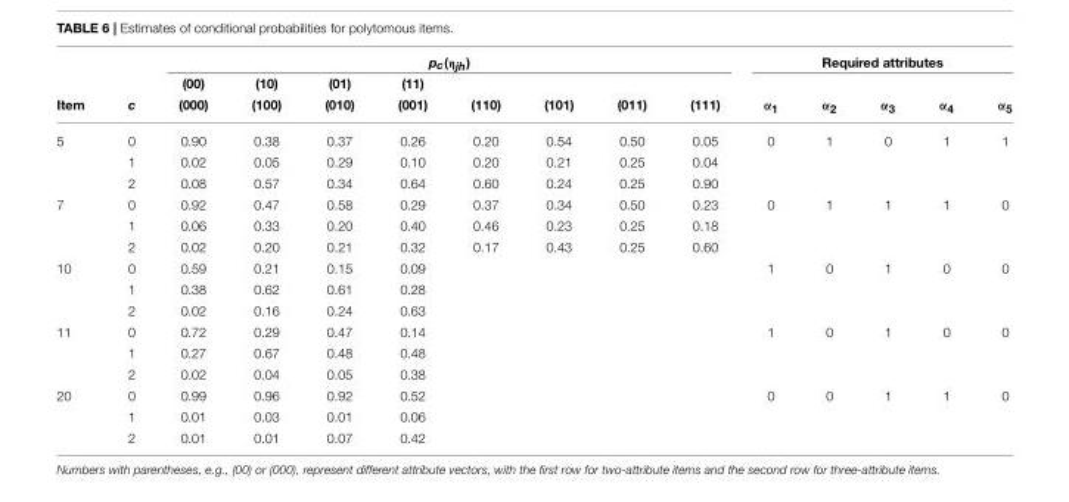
<table><thead><tr><td rowspan="2"></td><td rowspan="2"></td><td colspan="8">pc(ηjh)</td><td colspan="5">Required attributes</td></tr><tr><td>(00)</td><td>(10)</td><td>(01)</td><td>(11)</td><td></td><td></td><td></td><td></td><td></td><td></td><td></td><td></td><td></td></tr></thead><tbody><tr><td>Item</td><td>c</td><td>(000)</td><td>(100)</td><td>(010)</td><td>(001)</td><td>(110)</td><td>(101)</td><td>(011)</td><td>(111)</td><td>α<sub>1</sub></td><td>α<sub>2</sub></td><td>α<sub>3</sub></td><td>α<sub>4</sub></td><td>α<sub>5</sub></td></tr><tr><td rowspan="3">5</td><td>0</td><td>0.90</td><td>0.38</td><td>0.37</td><td>0.26</td><td>0.20</td><td>0.54</td><td>0.50</td><td>0.05</td><td>0</td><td>1</td><td>0</td><td>1</td><td>1</td></tr><tr><td>1</td><td>0.02</td><td>0.05</td><td>0.29</td><td>0.10</td><td>0.20</td><td>0.21</td><td>0.25</td><td>0.04</td><td></td><td></td><td></td><td></td><td></td></tr><tr><td>2</td><td>0.08</td><td>0.57</td><td>0.34</td><td>0.64</td><td>0.60</td><td>0.24</td><td>0.25</td><td>0.90</td><td></td><td></td><td></td><td></td><td></td></tr><tr><td rowspan="3">7</td><td>0</td><td>0.92</td><td>0.47</td><td>0.58</td><td>0.29</td><td>0.37</td><td>0.34</td><td>0.50</td><td>0.23</td><td>0</td><td>1</td><td>1</td><td>1</td><td>0</td></tr><tr><td>1</td><td>0.06</td><td>0.33</td><td>0.20</td><td>0.40</td><td>0.46</td><td>0.23</td><td>0.25</td><td>0.18</td><td></td><td></td><td></td><td></td><td></td></tr><tr><td>2</td><td>0.02</td><td>0.20</td><td>0.21</td><td>0.32</td><td>0.17</td><td>0.43</td><td>0.25</td><td>0.60</td><td></td><td></td><td></td><td></td><td></td></tr><tr><td rowspan="3">10</td><td>0</td><td>0.59</td><td>0.21</td><td>0.15</td><td>0.09</td><td></td><td></td><td></td><td></td><td>1</td><td>0</td><td>1</td><td>0</td><td>0</td></tr><tr><td>1</td><td>0.38</td><td>0.62</td><td>0.61</td><td>0.28</td><td></td><td></td><td></td><td></td><td></td><td></td><td></td><td></td><td></td></tr><tr><td>2</td><td>0.02</td><td>0.16</td><td>0.24</td><td>0.63</td><td></td><td></td><td></td><td></td><td></td><td></td><td></td><td></td><td></td></tr><tr><td rowspan="3">11</td><td>0</td><td>0.72</td><td>0.29</td><td>0.47</td><td>0.14</td><td></td><td></td><td></td><td></td><td>1</td><td>0</td><td>1</td><td>0</td><td>0</td></tr><tr><td>1</td><td>0.27</td><td>0.67</td><td>0.48</td><td>0.48</td><td></td><td></td><td></td><td></td><td></td><td></td><td></td><td></td><td></td></tr><tr><td>2</td><td>0.02</td><td>0.04</td><td>0.05</td><td>0.38</td><td></td><td></td><td></td><td></td><td></td><td></td><td></td><td></td><td></td></tr><tr><td rowspan="3">20</td><td>0</td><td>0.99</td><td>0.96</td><td>0.92</td><td>0.52</td><td></td><td></td><td></td><td></td><td>0</td><td>0</td><td>1</td><td>1</td><td>0</td></tr><tr><td>1</td><td>0.01</td><td>0.03</td><td>0.01</td><td>0.06</td><td></td><td></td><td></td><td></td><td></td><td></td><td></td><td></td><td></td></tr><tr><td>2</td><td>0.01</td><td>0.01</td><td>0.07</td><td>0.42</td><td></td><td></td><td></td><td></td><td></td><td></td><td></td><td></td><td></td></tr></tbody></table>